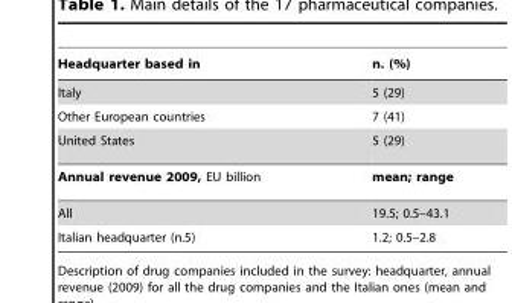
<table><thead><tr><td>Headquarter based in</td><td>n. (%)</td></tr></thead><tbody><tr><td>Italy</td><td>5 (29)</td></tr><tr><td>Other European countries</td><td>7 (41)</td></tr><tr><td>United States</td><td>5 (29)</td></tr><tr><td>Annual revenue 2009, EU billion</td><td>mean; range</td></tr><tr><td>All</td><td>19.5; 0.5–43.1</td></tr><tr><td>Italian headquarter (n.5)</td><td>1.2; 0.5–2.8</td></tr></tbody></table>